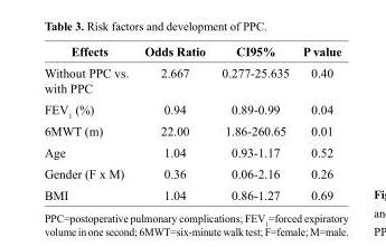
<table><thead><tr><td>Effects</td><td>Odds Ratio</td><td>CI95%</td><td>P value</td></tr></thead><tbody><tr><td>Without PPC vs. with PPC</td><td>2.667</td><td>0.277-25.635</td><td>0.40</td></tr><tr><td>FEV<sub>1</sub> (%)</td><td>0.94</td><td>0.89-0.99</td><td>0.04</td></tr><tr><td>6MWT (m)</td><td>22.00</td><td>1.86-260.65</td><td>0.01</td></tr><tr><td>Age</td><td>1.04</td><td>0.93-1.17</td><td>0.52</td></tr><tr><td>Gender (F x M)</td><td>0.36</td><td>0.06-2.16</td><td>0.26</td></tr><tr><td>BMI</td><td>1.04</td><td>0.86-1.27</td><td>0.69</td></tr></tbody></table>